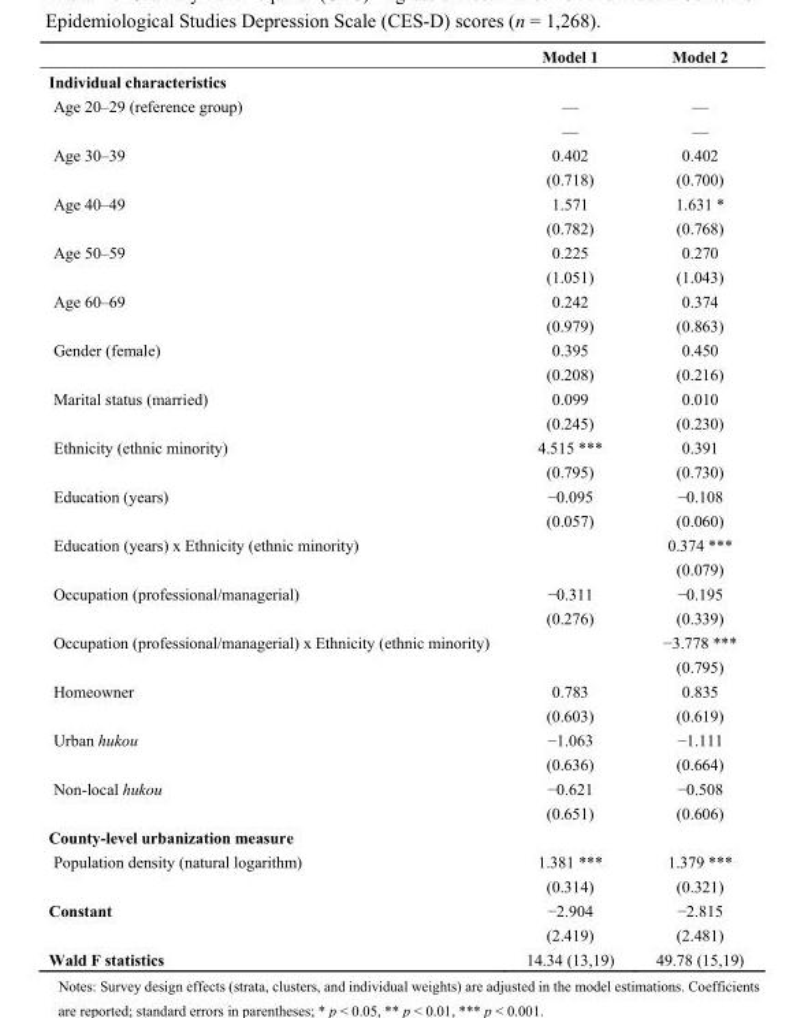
<table><thead><tr><td></td><td>Model 1</td><td>Model 2</td></tr></thead><tbody><tr><td colspan="3">Individual characteristics</td></tr><tr><td rowspan="2">Age 20–29 (reference group)</td><td>—</td><td>—</td></tr><tr><td>—</td><td>—</td></tr><tr><td rowspan="2">Age 30–39</td><td>0.402</td><td>0.402</td></tr><tr><td>(0.718)</td><td>(0.700)</td></tr><tr><td rowspan="2">Age 40–49</td><td>1.571</td><td>1.631 *</td></tr><tr><td>(0.782)</td><td>(0.768)</td></tr><tr><td rowspan="2">Age 50–59</td><td>0.225</td><td>0.270</td></tr><tr><td>(1.051)</td><td>(1.043)</td></tr><tr><td rowspan="2">Age 60–69</td><td>0.242</td><td>0.374</td></tr><tr><td>(0.979)</td><td>(0.863)</td></tr><tr><td rowspan="2">Gender (female)</td><td>0.395</td><td>0.450</td></tr><tr><td>(0.208)</td><td>(0.216)</td></tr><tr><td rowspan="2">Marital status (married)</td><td>0.099</td><td>0.010</td></tr><tr><td>(0.245)</td><td>(0.230)</td></tr><tr><td rowspan="2">Ethnicity (ethnic minority)</td><td>4.515 ***</td><td>0.391</td></tr><tr><td>(0.795)</td><td>(0.730)</td></tr><tr><td rowspan="2">Education (years)</td><td>−0.095</td><td>−0.108</td></tr><tr><td>(0.057)</td><td>(0.060)</td></tr><tr><td rowspan="2">Education (years) x Ethnicity (ethnic minority)</td><td></td><td>0.374 ***</td></tr><tr><td></td><td>(0.079)</td></tr><tr><td rowspan="2">Occupation (professional/managerial)</td><td>−0.311</td><td>−0.195</td></tr><tr><td>(0.276)</td><td>(0.339)</td></tr><tr><td rowspan="2">Occupation (professional/managerial) x Ethnicity (ethnic minority)</td><td></td><td>−3.778 ***</td></tr><tr><td></td><td>(0.795)</td></tr><tr><td rowspan="2">Homeowner</td><td>0.783</td><td>0.835</td></tr><tr><td>(0.603)</td><td>(0.619)</td></tr><tr><td rowspan="2">Urban hukou</td><td>−1.063</td><td>−1.111</td></tr><tr><td>(0.636)</td><td>(0.664)</td></tr><tr><td rowspan="2">Non-local hukou</td><td>−0.621</td><td>−0.508</td></tr><tr><td>(0.651)</td><td>(0.606)</td></tr><tr><td colspan="3">County-level urbanization measure</td></tr><tr><td rowspan="2">Population density (natural logarithm)</td><td>1.381 ***</td><td>1.379 ***</td></tr><tr><td>(0.314)</td><td>(0.321)</td></tr><tr><td rowspan="2">Constant</td><td>−2.904</td><td>−2.815</td></tr><tr><td>(2.419)</td><td>(2.481)</td></tr><tr><td>Wald F statistics</td><td>14.34 (13,19)</td><td>49.78 (15,19)</td></tr></tbody></table>